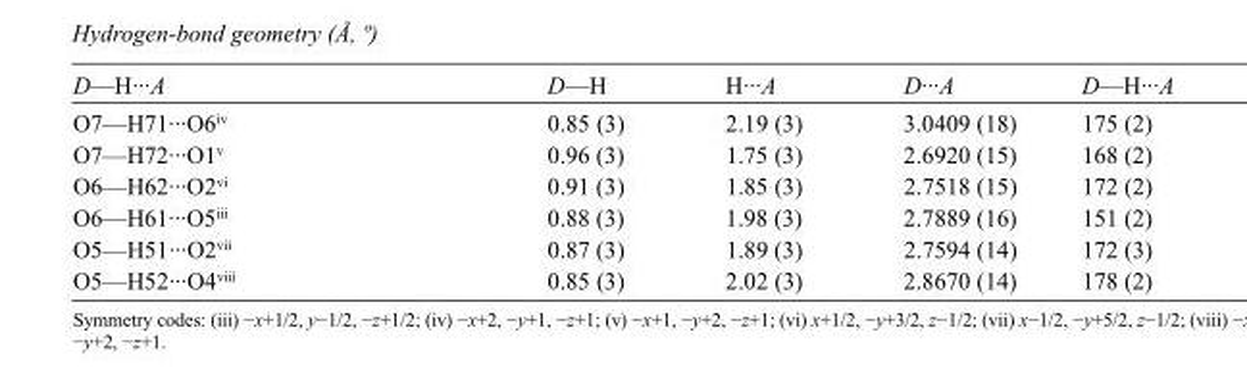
<table><tbody><tr><td>D—H···A</td><td>D—H</td><td>H···A</td><td>D···A</td><td>D—H···A</td></tr><tr><td>O7—H71···O6<sup>iv</sup></td><td>0.85 (3)</td><td>2.19 (3)</td><td>3.0409 (18)</td><td>175 (2)</td></tr><tr><td>O7—H72···O1<sup>v</sup></td><td>0.96 (3)</td><td>1.75 (3)</td><td>2.6920 (15)</td><td>168 (2)</td></tr><tr><td>O6—H62···O2<sup>vi</sup></td><td>0.91 (3)</td><td>1.85 (3)</td><td>2.7518 (15)</td><td>172 (2)</td></tr><tr><td>O6—H61···O5<sup>iii</sup></td><td>0.88 (3)</td><td>1.98 (3)</td><td>2.7889 (16)</td><td>151 (2)</td></tr><tr><td>O5—H51···O2<sup>vii</sup></td><td>0.87 (3)</td><td>1.89 (3)</td><td>2.7594 (14)</td><td>172 (3)</td></tr><tr><td>O5—H52···O4<sup>viii</sup></td><td>0.85 (3)</td><td>2.02 (3)</td><td>2.8670 (14)</td><td>178 (2)</td></tr></tbody></table>